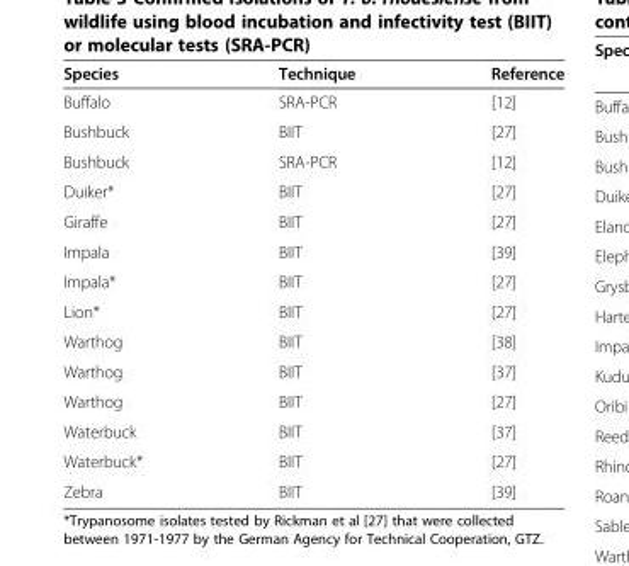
<table><thead><tr><td>Species</td><td>Technique</td><td>Reference</td></tr></thead><tbody><tr><td>Buffalo</td><td>SRA-PCR</td><td>[12]</td></tr><tr><td>Bushbuck</td><td>BIIT</td><td>[27]</td></tr><tr><td>Bushbuck</td><td>SRA-PCR</td><td>[12]</td></tr><tr><td>Duiker*</td><td>BIIT</td><td>[27]</td></tr><tr><td>Giraffe</td><td>BIIT</td><td>[27]</td></tr><tr><td>Impala</td><td>BIIT</td><td>[39]</td></tr><tr><td>Impala*</td><td>BIIT</td><td>[27]</td></tr><tr><td>Lion*</td><td>BIIT</td><td>[27]</td></tr><tr><td>Warthog</td><td>BIIT</td><td>[38]</td></tr><tr><td>Warthog</td><td>BIIT</td><td>[37]</td></tr><tr><td>Warthog</td><td>BIIT</td><td>[27]</td></tr><tr><td>Waterbuck</td><td>BIIT</td><td>[37]</td></tr><tr><td>Waterbuck*</td><td>BIIT</td><td>[27]</td></tr><tr><td>Zebra</td><td>BIIT</td><td>[39]</td></tr></tbody></table>